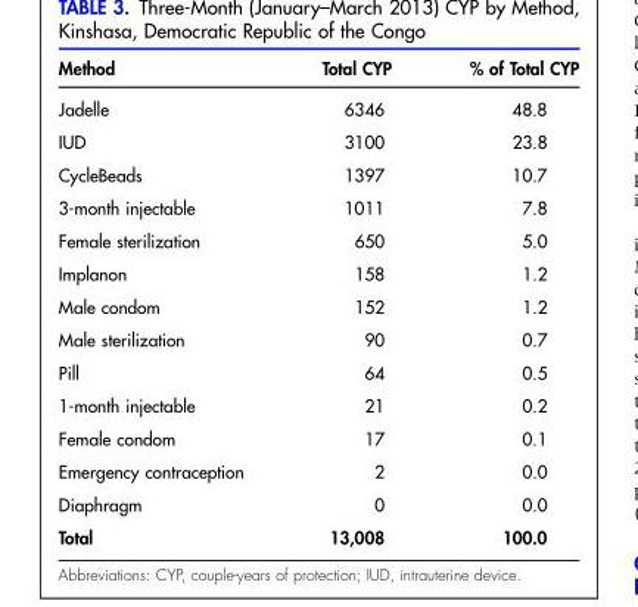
<table><thead><tr><td>Method</td><td>Total CYP</td><td>% of Total CYP</td></tr></thead><tbody><tr><td>Jadelle</td><td>6346</td><td>48.8</td></tr><tr><td>IUD</td><td>3100</td><td>23.8</td></tr><tr><td>CycleBeads</td><td>1397</td><td>10.7</td></tr><tr><td>3-month injectable</td><td>1011</td><td>7.8</td></tr><tr><td>Female sterilization</td><td>650</td><td>5.0</td></tr><tr><td>Implanon</td><td>158</td><td>1.2</td></tr><tr><td>Male condom</td><td>152</td><td>1.2</td></tr><tr><td>Male sterilization</td><td>90</td><td>0.7</td></tr><tr><td>Pill</td><td>64</td><td>0.5</td></tr><tr><td>1-month injectable</td><td>21</td><td>0.2</td></tr><tr><td>Female condom</td><td>17</td><td>0.1</td></tr><tr><td>Emergency contraception</td><td>2</td><td>0.0</td></tr><tr><td>Diaphragm</td><td>0</td><td>0.0</td></tr><tr><td>Total</td><td>13,008</td><td>100.0</td></tr></tbody></table>